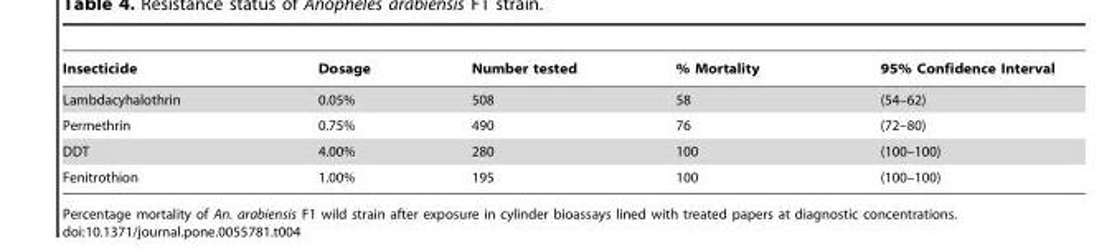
<table><thead><tr><td>Insecticide</td><td>Dosage</td><td>Number tested</td><td>% Mortality</td><td>95% Confidence Interval</td></tr></thead><tbody><tr><td>Lambdacyhalothrin</td><td>0.05%</td><td>508</td><td>58</td><td>(54–62)</td></tr><tr><td>Permethrin</td><td>0.75%</td><td>490</td><td>76</td><td>(72–80)</td></tr><tr><td>DDT</td><td>4.00%</td><td>280</td><td>100</td><td>(100–100)</td></tr><tr><td>Fenitrothion</td><td>1.00%</td><td>195</td><td>100</td><td>(100–100)</td></tr></tbody></table>